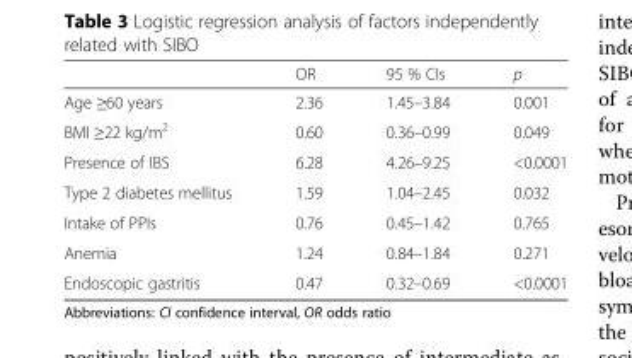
<table><thead><tr><td></td><td>OR</td><td>95 % CIs</td><td>p</td></tr></thead><tbody><tr><td>Age ≥60 years</td><td>2.36</td><td>1.45–3.84</td><td>0.001</td></tr><tr><td>BMI ≥22 kg/m<sup>2</sup></td><td>0.60</td><td>0.36–0.99</td><td>0.049</td></tr><tr><td>Presence of IBS</td><td>6.28</td><td>4.26–9.25</td><td>&lt;0.0001</td></tr><tr><td>Type 2 diabetes mellitus</td><td>1.59</td><td>1.04–2.45</td><td>0.032</td></tr><tr><td>Intake of PPIs</td><td>0.76</td><td>0.45–1.42</td><td>0.765</td></tr><tr><td>Anemia</td><td>1.24</td><td>0.84–1.84</td><td>0.271</td></tr><tr><td>Endoscopic gastritis</td><td>0.47</td><td>0.32–0.69</td><td>&lt;0.0001</td></tr></tbody></table>